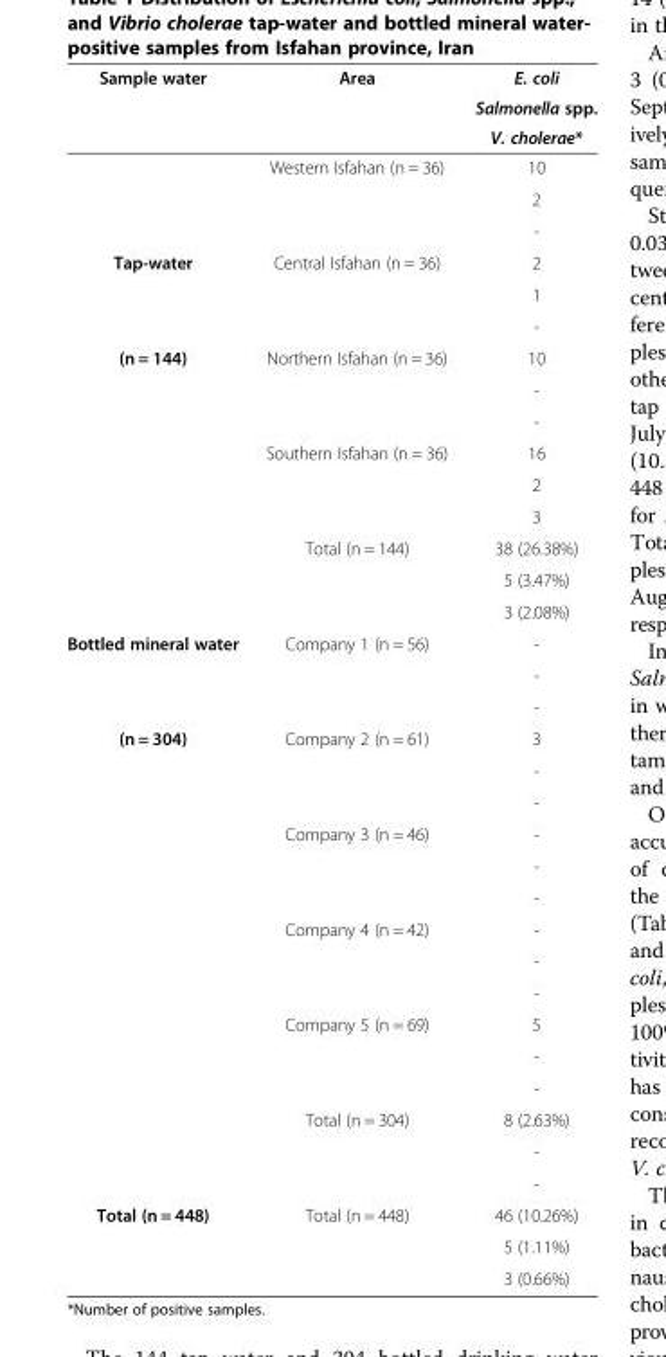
<table><thead><tr><td rowspan="3">Sample water</td><td rowspan="3">Area</td><td rowspan="3">E. coli Salmonella spp. V. cholerae*</td></tr><tr></tr><tr></tr></thead><tbody><tr><td rowspan="3"></td><td rowspan="3">Western Isfahan (n = 36)</td><td>10</td></tr><tr><td>2</td></tr><tr><td>-</td></tr><tr><td rowspan="3">Tap-water</td><td rowspan="3">Central Isfahan (n = 36)</td><td>2</td></tr><tr><td>1</td></tr><tr><td>-</td></tr><tr><td rowspan="9">(n = 144)</td><td rowspan="3">Northern Isfahan (n = 36)</td><td>10</td></tr><tr><td>-</td></tr><tr><td>-</td></tr><tr><td rowspan="3">Southern Isfahan (n = 36)</td><td>16</td></tr><tr><td>2</td></tr><tr><td>3</td></tr><tr><td rowspan="3">Total (n = 144)</td><td>38 (26.38%)</td></tr><tr><td>5 (3.47%)</td></tr><tr><td>3 (2.08%)</td></tr><tr><td rowspan="3">Bottled mineral water</td><td rowspan="3">Company 1 (n = 56)</td><td>-</td></tr><tr><td>-</td></tr><tr><td>-</td></tr><tr><td rowspan="15">(n = 304)</td><td rowspan="3">Company 2 (n = 61)</td><td>3</td></tr><tr><td>-</td></tr><tr><td>-</td></tr><tr><td rowspan="3">Company 3 (n = 46)</td><td>-</td></tr><tr><td>-</td></tr><tr><td>-</td></tr><tr><td rowspan="3">Company 4 (n = 42)</td><td>-</td></tr><tr><td>-</td></tr><tr><td>-</td></tr><tr><td rowspan="3">Company 5 (n = 69)</td><td>5</td></tr><tr><td>-</td></tr><tr><td>-</td></tr><tr><td rowspan="3">Total (n = 304)</td><td>8 (2.63%)</td></tr><tr><td>-</td></tr><tr><td>-</td></tr><tr><td rowspan="3">Total (n = 448)</td><td rowspan="2">Total (n = 448)</td><td>46 (10.26%)</td></tr><tr><td>5 (1.11%)</td></tr><tr><td></td><td>3 (0.66%)</td></tr></tbody></table>